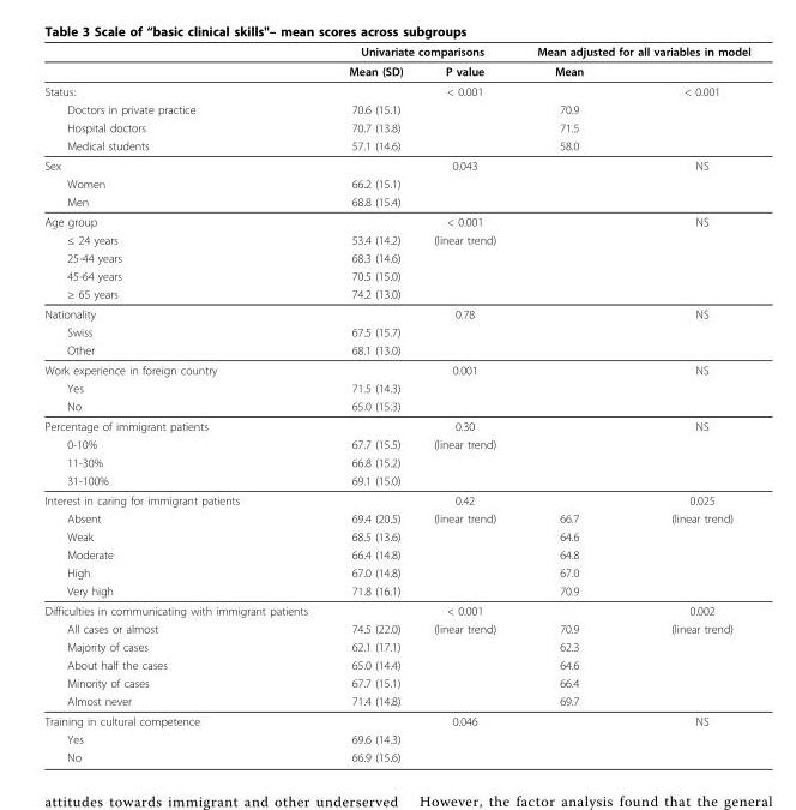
<table><thead><tr><td rowspan="2"></td><td colspan="2">Univariate comparisons</td><td colspan="2">Mean adjusted for all variables in model</td></tr><tr><td>Mean (SD)</td><td>P value</td><td>Mean</td><td></td></tr></thead><tbody><tr><td>Status:</td><td></td><td>&lt; 0.001</td><td></td><td>&lt; 0.001</td></tr><tr><td>Doctors in private practice</td><td>70.6 (15.1)</td><td></td><td>70.9</td><td></td></tr><tr><td>Hospital doctors</td><td>70.7 (13.8)</td><td></td><td>71.5</td><td></td></tr><tr><td>Medical students</td><td>57.1 (14.6)</td><td></td><td>58.0</td><td></td></tr><tr><td>Sex</td><td></td><td>0.043</td><td></td><td>NS</td></tr><tr><td>Women</td><td>66.2 (15.1)</td><td></td><td></td><td></td></tr><tr><td>Men</td><td>68.8 (15.4)</td><td></td><td></td><td></td></tr><tr><td>Age group</td><td></td><td>&lt; 0.001</td><td></td><td>NS</td></tr><tr><td>≤ 24 years</td><td>53.4 (14.2)</td><td>(linear trend)</td><td></td><td></td></tr><tr><td>25-44 years</td><td>68.3 (14.6)</td><td></td><td></td><td></td></tr><tr><td>45-64 years</td><td>70.5 (15.0)</td><td></td><td></td><td></td></tr><tr><td>≥ 65 years</td><td>74.2 (13.0)</td><td></td><td></td><td></td></tr><tr><td>Nationality</td><td></td><td>0.78</td><td></td><td>NS</td></tr><tr><td>Swiss</td><td>67.5 (15.7)</td><td></td><td></td><td></td></tr><tr><td>Other</td><td>68.1 (13.0)</td><td></td><td></td><td></td></tr><tr><td>Work experience in foreign country</td><td></td><td>0.001</td><td></td><td>NS</td></tr><tr><td>Yes</td><td>71.5 (14.3)</td><td></td><td></td><td></td></tr><tr><td>No</td><td>65.0 (15.3)</td><td></td><td></td><td></td></tr><tr><td>Percentage of immigrant patients</td><td></td><td>0.30</td><td></td><td>NS</td></tr><tr><td>0-10%</td><td>67.7 (15.5)</td><td>(linear trend)</td><td></td><td></td></tr><tr><td>11-30%</td><td>66.8 (15.2)</td><td></td><td></td><td></td></tr><tr><td>31-100%</td><td>69.1 (15.0)</td><td></td><td></td><td></td></tr><tr><td>Interest in caring for immigrant patients</td><td></td><td>0.42</td><td></td><td>0.025</td></tr><tr><td>Absent</td><td>69.4 (20.5)</td><td>(linear trend)</td><td>66.7</td><td>(linear trend)</td></tr><tr><td>Weak</td><td>68.5 (13.6)</td><td></td><td>64.6</td><td></td></tr><tr><td>Moderate</td><td>66.4 (14.8)</td><td></td><td>64.8</td><td></td></tr><tr><td>High</td><td>67.0 (14.8)</td><td></td><td>67.0</td><td></td></tr><tr><td>Very high</td><td>71.8 (16.1)</td><td></td><td>70.9</td><td></td></tr><tr><td>Difficulties in communicating with immigrant patients</td><td></td><td>&lt; 0.001</td><td></td><td>0.002</td></tr><tr><td>All cases or almost</td><td>74.5 (22.0)</td><td>(linear trend)</td><td>70.9</td><td>(linear trend)</td></tr><tr><td>Majority of cases</td><td>62.1 (17.1)</td><td></td><td>62.3</td><td></td></tr><tr><td>About half the cases</td><td>65.0 (14.4)</td><td></td><td>64.6</td><td></td></tr><tr><td>Minority of cases</td><td>67.7 (15.1)</td><td></td><td>66.4</td><td></td></tr><tr><td>Almost never</td><td>71.4 (14.8)</td><td></td><td>69.7</td><td></td></tr><tr><td>Training in cultural competence</td><td></td><td>0.046</td><td></td><td>NS</td></tr><tr><td>Yes</td><td>69.6 (14.3)</td><td></td><td></td><td></td></tr><tr><td>No</td><td>66.9 (15.6)</td><td></td><td></td><td></td></tr></tbody></table>